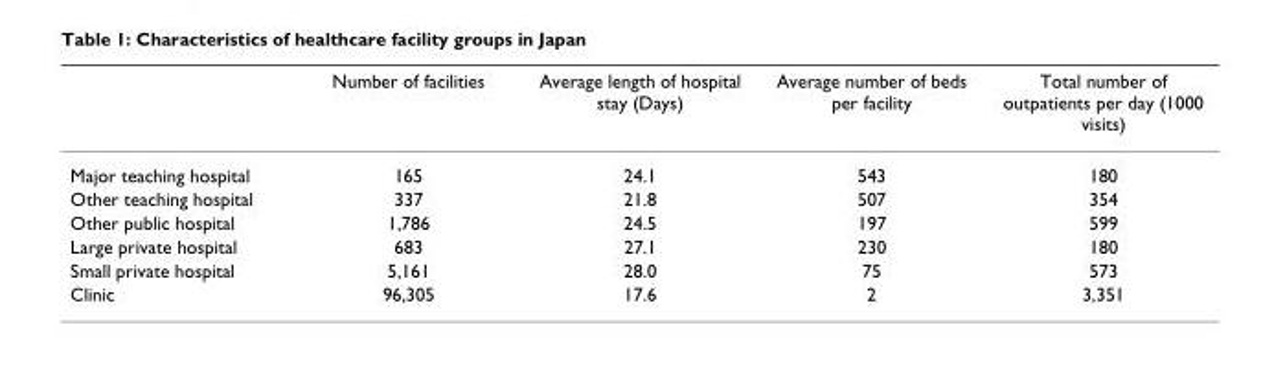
<table><thead><tr><td></td><td>Number of facilities</td><td>Average length of hospital stay (Days)</td><td>Average number of beds per facility</td><td>Total number of outpatients per day (1000 visits)</td></tr></thead><tbody><tr><td>Major teaching hospital</td><td>165</td><td>24.1</td><td>543</td><td>180</td></tr><tr><td>Other teaching hospital</td><td>337</td><td>21.8</td><td>507</td><td>354</td></tr><tr><td>Other public hospital</td><td>1,786</td><td>24.5</td><td>197</td><td>599</td></tr><tr><td>Large private hospital</td><td>683</td><td>27.1</td><td>230</td><td>180</td></tr><tr><td>Small private hospital</td><td>5,161</td><td>28.0</td><td>75</td><td>573</td></tr><tr><td>Clinic</td><td>96,305</td><td>17.6</td><td>2</td><td>3,351</td></tr></tbody></table>